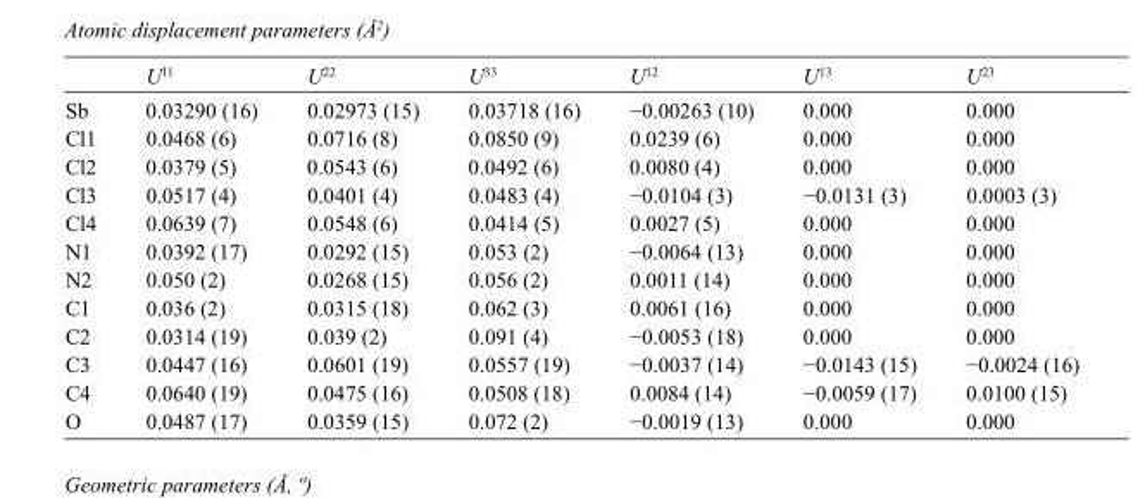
<table><thead><tr><td></td><td>U<sup>11</sup></td><td>U<sup>22</sup></td><td>U<sup>33</sup></td><td>U<sup>12</sup></td><td>U<sup>13</sup></td><td>U<sup>23</sup></td></tr></thead><tbody><tr><td>Sb</td><td>0.03290 (16)</td><td>0.02973 (15)</td><td>0.03718 (16)</td><td>−0.00263 (10)</td><td>0.000</td><td>0.000</td></tr><tr><td>Cl1</td><td>0.0468 (6)</td><td>0.0716 (8)</td><td>0.0850 (9)</td><td>0.0239 (6)</td><td>0.000</td><td>0.000</td></tr><tr><td>Cl2</td><td>0.0379 (5)</td><td>0.0543 (6)</td><td>0.0492 (6)</td><td>0.0080 (4)</td><td>0.000</td><td>0.000</td></tr><tr><td>Cl3</td><td>0.0517 (4)</td><td>0.0401 (4)</td><td>0.0483 (4)</td><td>−0.0104 (3)</td><td>−0.0131 (3)</td><td>0.0003 (3)</td></tr><tr><td>Cl4</td><td>0.0639 (7)</td><td>0.0548 (6)</td><td>0.0414 (5)</td><td>0.0027 (5)</td><td>0.000</td><td>0.000</td></tr><tr><td>N1</td><td>0.0392 (17)</td><td>0.0292 (15)</td><td>0.053 (2)</td><td>−0.0064 (13)</td><td>0.000</td><td>0.000</td></tr><tr><td>N2</td><td>0.050 (2)</td><td>0.0268 (15)</td><td>0.056 (2)</td><td>0.0011 (14)</td><td>0.000</td><td>0.000</td></tr><tr><td>C1</td><td>0.036 (2)</td><td>0.0315 (18)</td><td>0.062 (3)</td><td>0.0061 (16)</td><td>0.000</td><td>0.000</td></tr><tr><td>C2</td><td>0.0314 (19)</td><td>0.039 (2)</td><td>0.091 (4)</td><td>−0.0053 (18)</td><td>0.000</td><td>0.000</td></tr><tr><td>C3</td><td>0.0447 (16)</td><td>0.0601 (19)</td><td>0.0557 (19)</td><td>−0.0037 (14)</td><td>−0.0143 (15)</td><td>−0.0024 (16)</td></tr><tr><td>C4</td><td>0.0640 (19)</td><td>0.0475 (16)</td><td>0.0508 (18)</td><td>0.0084 (14)</td><td>−0.0059 (17)</td><td>0.0100 (15)</td></tr><tr><td>O</td><td>0.0487 (17)</td><td>0.0359 (15)</td><td>0.072 (2)</td><td>−0.0019 (13)</td><td>0.000</td><td>0.000</td></tr></tbody></table>